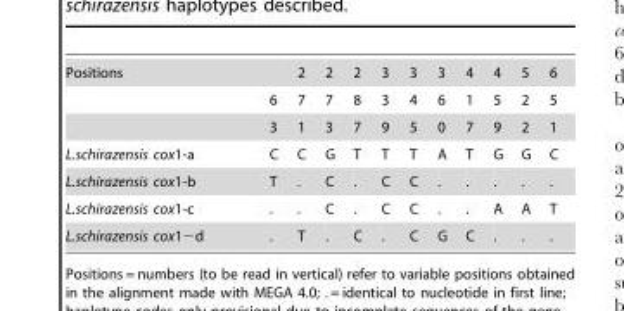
<table><tbody><tr><td rowspan="3">Positions</td><td></td><td>2</td><td>2</td><td>2</td><td>3</td><td>3</td><td>3</td><td>4</td><td>4</td><td>5</td><td>6</td></tr><tr><td>6</td><td>7</td><td>7</td><td>8</td><td>3</td><td>4</td><td>6</td><td>1</td><td>5</td><td>2</td><td>5</td></tr><tr><td>3</td><td>1</td><td>3</td><td>7</td><td>9</td><td>5</td><td>0</td><td>7</td><td>9</td><td>2</td><td>1</td></tr><tr><td>L.schirazensis cox1-a</td><td>C</td><td>C</td><td>G</td><td>T</td><td>T</td><td>T</td><td>A</td><td>T</td><td>G</td><td>G</td><td>C</td></tr><tr><td>L.schirazensis cox1-b</td><td>T</td><td>.</td><td>C</td><td>.</td><td>C</td><td>C</td><td>.</td><td>.</td><td>.</td><td>.</td><td>.</td></tr><tr><td>L.schirazensis cox1-c</td><td>.</td><td>.</td><td>C</td><td>.</td><td>C</td><td>C</td><td>.</td><td>.</td><td>A</td><td>A</td><td>T</td></tr><tr><td>L.schirazensis cox1−d</td><td>.</td><td>T</td><td>.</td><td>C</td><td>.</td><td>C</td><td>G</td><td>C</td><td>.</td><td>.</td><td>.</td></tr></tbody></table>